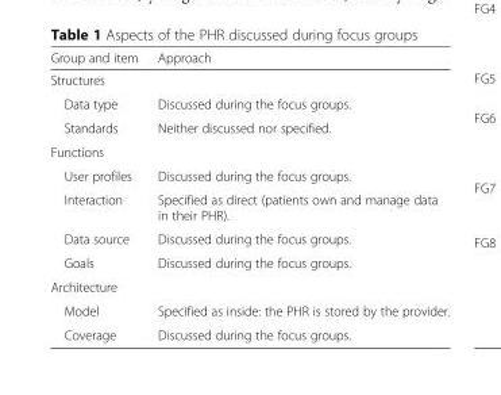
<table><thead><tr><td>Group and item</td><td>Approach</td></tr></thead><tbody><tr><td colspan="2">Structures</td></tr><tr><td>Data type</td><td>Discussed during the focus groups.</td></tr><tr><td>Standards</td><td>Neither discussed nor specified.</td></tr><tr><td colspan="2">Functions</td></tr><tr><td>User profiles</td><td>Discussed during the focus groups.</td></tr><tr><td>Interaction</td><td>Specified as direct (patients own and manage data in their PHR).</td></tr><tr><td>Data source</td><td>Discussed during the focus groups.</td></tr><tr><td>Goals</td><td>Discussed during the focus groups.</td></tr><tr><td colspan="2">Architecture</td></tr><tr><td>Model</td><td>Specified as inside: the PHR is stored by the provider.</td></tr><tr><td>Coverage</td><td>Discussed during the focus groups.</td></tr></tbody></table>